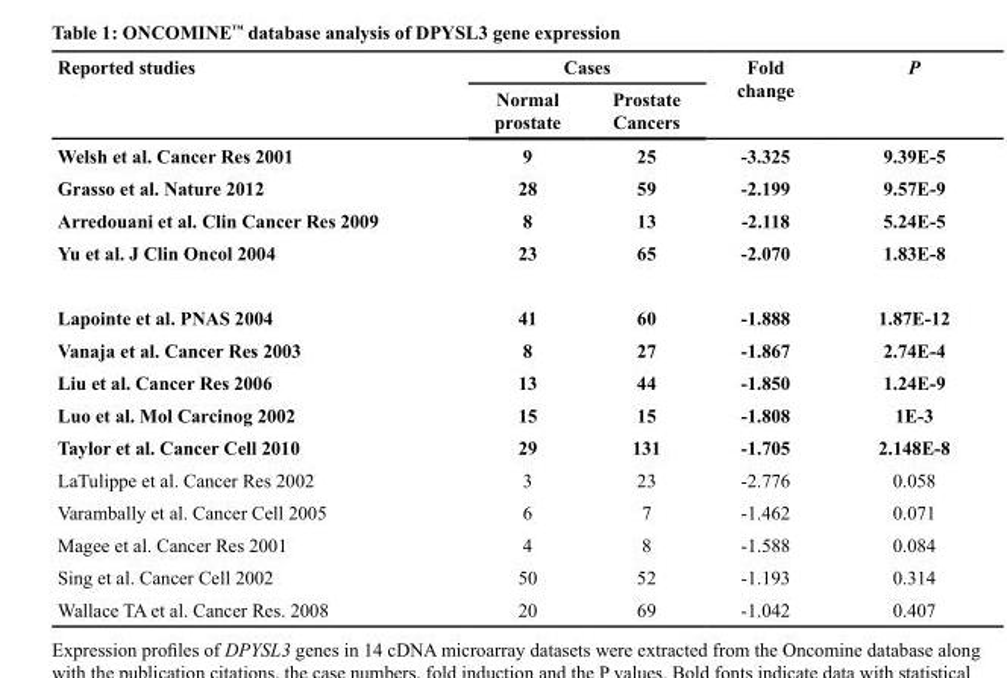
<table><thead><tr><td rowspan="2">Reported studies</td><td colspan="2">Cases</td><td rowspan="2">Fold change</td><td rowspan="2">P</td></tr><tr><td>Normal prostate</td><td>Prostate Cancers</td></tr></thead><tbody><tr><td>Welsh et al. Cancer Res 2001</td><td>9</td><td>25</td><td>-3.325</td><td>9.39E-5</td></tr><tr><td>Grasso et al. Nature 2012</td><td>28</td><td>59</td><td>-2.199</td><td>9.57E-9</td></tr><tr><td>Arredouani et al. Clin Cancer Res 2009</td><td>8</td><td>13</td><td>-2.118</td><td>5.24E-5</td></tr><tr><td>Yu et al. J Clin Oncol 2004</td><td>23</td><td>65</td><td>-2.070</td><td>1.83E-8</td></tr><tr><td>Lapointe et al. PNAS 2004</td><td>41</td><td>60</td><td>-1.888</td><td>1.87E-12</td></tr><tr><td>Vanaja et al. Cancer Res 2003</td><td>8</td><td>27</td><td>-1.867</td><td>2.74E-4</td></tr><tr><td>Liu et al. Cancer Res 2006</td><td>13</td><td>44</td><td>-1.850</td><td>1.24E-9</td></tr><tr><td>Luo et al. Mol Carcinog 2002</td><td>15</td><td>15</td><td>-1.808</td><td>1E-3</td></tr><tr><td>Taylor et al. Cancer Cell 2010</td><td>29</td><td>131</td><td>-1.705</td><td>2.148E-8</td></tr><tr><td>LaTulippe et al. Cancer Res 2002</td><td>3</td><td>23</td><td>-2.776</td><td>0.058</td></tr><tr><td>Varambally et al. Cancer Cell 2005</td><td>6</td><td>7</td><td>-1.462</td><td>0.071</td></tr><tr><td>Magee et al. Cancer Res 2001</td><td>4</td><td>8</td><td>-1.588</td><td>0.084</td></tr><tr><td>Sing et al. Cancer Cell 2002</td><td>50</td><td>52</td><td>-1.193</td><td>0.314</td></tr><tr><td>Wallace TA et al. Cancer Res. 2008</td><td>20</td><td>69</td><td>-1.042</td><td>0.407</td></tr></tbody></table>